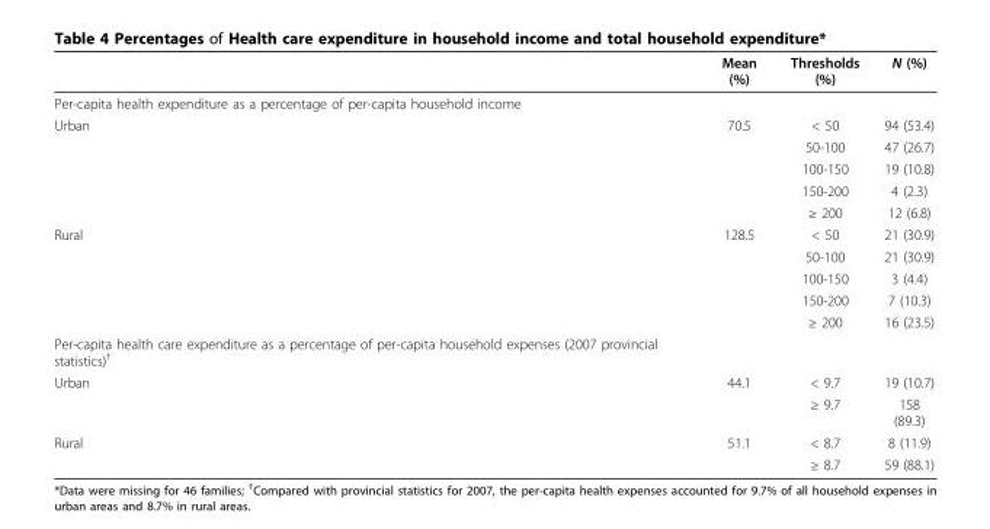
<table><thead><tr><td></td><td>Mean (%)</td><td>Thresholds (%)</td><td>N (%)</td></tr></thead><tbody><tr><td colspan="4">Per-capita health expenditure as a percentage of per-capita household income</td></tr><tr><td rowspan="5">Urban</td><td>70.5</td><td>&lt; 50</td><td>94 (53.4)</td></tr><tr><td></td><td>50-100</td><td>47 (26.7)</td></tr><tr><td></td><td>100-150</td><td>19 (10.8)</td></tr><tr><td></td><td>150-200</td><td>4 (2.3)</td></tr><tr><td></td><td>≥ 200</td><td>12 (6.8)</td></tr><tr><td rowspan="5">Rural</td><td>128.5</td><td>&lt; 50</td><td>21 (30.9)</td></tr><tr><td></td><td>50-100</td><td>21 (30.9)</td></tr><tr><td></td><td>100-150</td><td>3 (4.4)</td></tr><tr><td></td><td>150-200</td><td>7 (10.3)</td></tr><tr><td></td><td>≥ 200</td><td>16 (23.5)</td></tr><tr><td colspan="4">Per-capita health care expenditure as a percentage of per-capita household expenses (2007 provincial statistics)<sup>†</sup></td></tr><tr><td rowspan="2">Urban</td><td>44.1</td><td>&lt; 9.7</td><td>19 (10.7)</td></tr><tr><td></td><td>≥ 9.7</td><td>158 (89.3)</td></tr><tr><td rowspan="2">Rural</td><td>51.1</td><td>&lt; 8.7</td><td>8 (11.9)</td></tr><tr><td></td><td>≥ 8.7</td><td>59 (88.1)</td></tr></tbody></table>